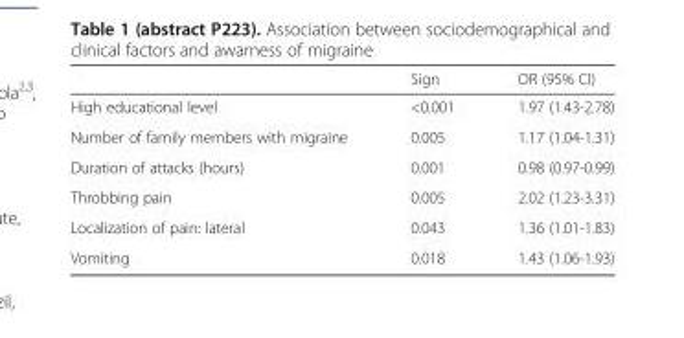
<table><thead><tr><td></td><td>Sign</td><td>OR (95% CI)</td></tr></thead><tbody><tr><td>High educational level</td><td>&lt;0.001</td><td>1.97 (1.43-2.78)</td></tr><tr><td>Number of family members with migraine</td><td>0.005</td><td>1.17 (1.04-1.31)</td></tr><tr><td>Duration of attacks (hours)</td><td>0.001</td><td>0.98 (0.97-0.99)</td></tr><tr><td>Throbbing pain</td><td>0.005</td><td>2.02 (1.23-3.31)</td></tr><tr><td>Localization of pain: lateral</td><td>0.043</td><td>1.36 (1.01-1.83)</td></tr><tr><td>Vomiting</td><td>0.018</td><td>1.43 (1.06-1.93)</td></tr></tbody></table>